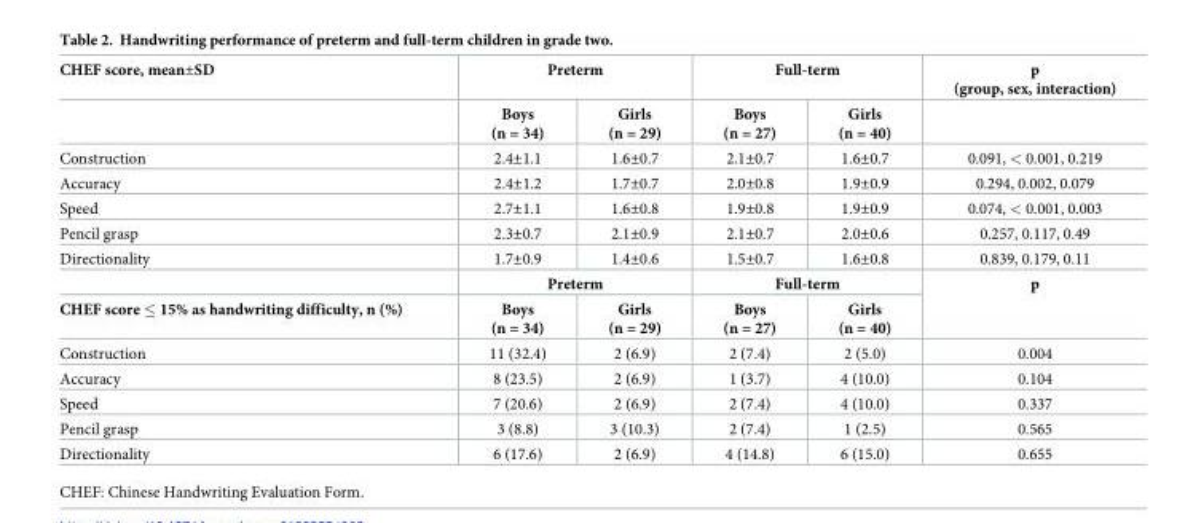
<table><tbody><tr><td rowspan="2">CHEF score, mean±SD</td><td colspan="2">Preterm</td><td colspan="2">Full-term</td><td>p (group, sex, interaction)</td></tr><tr><td>Boys (n = 34)</td><td>Girls (n = 29)</td><td>Boys (n = 27)</td><td>Girls (n = 40)</td><td></td></tr><tr><td>Construction</td><td>2.4±1.1</td><td>1.6±0.7</td><td>2.1±0.7</td><td>1.6±0.7</td><td>0.091, &lt; 0.001, 0.219</td></tr><tr><td>Accuracy</td><td>2.4±1.2</td><td>1.7±0.7</td><td>2.0±0.8</td><td>1.9±0.9</td><td>0.294, 0.002, 0.079</td></tr><tr><td>Speed</td><td>2.7±1.1</td><td>1.6±0.8</td><td>1.9±0.8</td><td>1.9±0.9</td><td>0.074, &lt; 0.001, 0.003</td></tr><tr><td>Pencil grasp</td><td>2.3±0.7</td><td>2.1±0.9</td><td>2.1±0.7</td><td>2.0±0.6</td><td>0.257, 0.117, 0.49</td></tr><tr><td rowspan="2">Directionality</td><td>1.7±0.9</td><td>1.4±0.6</td><td>1.5±0.7</td><td>1.6±0.8</td><td>0.839, 0.179, 0.11</td></tr><tr><td colspan="2">Preterm</td><td colspan="2">Full-term</td><td rowspan="2">p</td></tr><tr><td>CHEF score ≤ 15% as handwriting difficulty, n (%)</td><td>Boys (n = 34)</td><td>Girls (n = 29)</td><td>Boys (n = 27)</td><td>Girls (n = 40)</td></tr><tr><td>Construction</td><td>11 (32.4)</td><td>2 (6.9)</td><td>2 (7.4)</td><td>2 (5.0)</td><td>0.004</td></tr><tr><td>Accuracy</td><td>8 (23.5)</td><td>2 (6.9)</td><td>1 (3.7)</td><td>4 (10.0)</td><td>0.104</td></tr><tr><td>Speed</td><td>7 (20.6)</td><td>2 (6.9)</td><td>2 (7.4)</td><td>4 (10.0)</td><td>0.337</td></tr><tr><td>Pencil grasp</td><td>3 (8.8)</td><td>3 (10.3)</td><td>2 (7.4)</td><td>1 (2.5)</td><td>0.565</td></tr><tr><td>Directionality</td><td>6 (17.6)</td><td>2 (6.9)</td><td>4 (14.8)</td><td>6 (15.0)</td><td>0.655</td></tr></tbody></table>